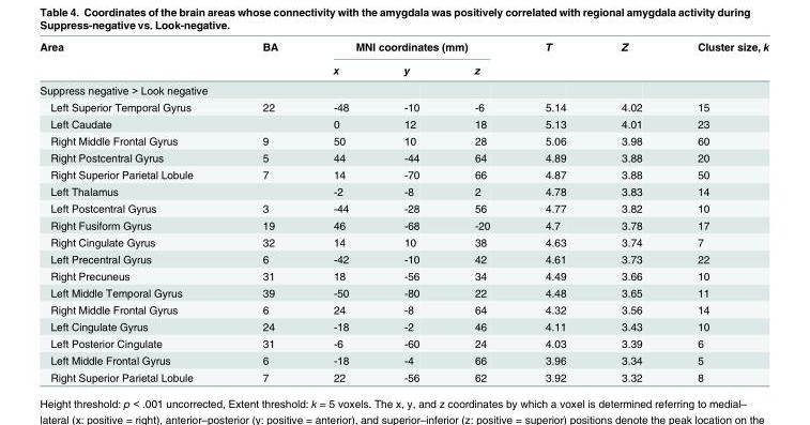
<table><thead><tr><td rowspan="2">Area</td><td rowspan="2">BA</td><td colspan="3">MNI coordinates (mm)</td><td rowspan="2">T</td><td rowspan="2">Z</td><td rowspan="2">Cluster size, k</td></tr><tr><td>x</td><td>y</td><td>z</td></tr></thead><tbody><tr><td colspan="8">Suppress negative &gt; Look negative</td></tr><tr><td>Left Superior Temporal Gyrus</td><td>22</td><td>-48</td><td>-10</td><td>-6</td><td>5.14</td><td>4.02</td><td>15</td></tr><tr><td>Left Caudate</td><td></td><td>0</td><td>12</td><td>18</td><td>5.13</td><td>4.01</td><td>23</td></tr><tr><td>Right Middle Frontal Gyrus</td><td>9</td><td>50</td><td>10</td><td>28</td><td>5.06</td><td>3.98</td><td>60</td></tr><tr><td>Right Postcentral Gyrus</td><td>5</td><td>44</td><td>-44</td><td>64</td><td>4.89</td><td>3.88</td><td>20</td></tr><tr><td>Right Superior Parietal Lobule</td><td>7</td><td>14</td><td>-70</td><td>66</td><td>4.87</td><td>3.88</td><td>50</td></tr><tr><td>Left Thalamus</td><td></td><td>-2</td><td>-8</td><td>2</td><td>4.78</td><td>3.83</td><td>14</td></tr><tr><td>Left Postcentral Gyrus</td><td>3</td><td>-44</td><td>-28</td><td>56</td><td>4.77</td><td>3.82</td><td>10</td></tr><tr><td>Right Fusiform Gyrus</td><td>19</td><td>46</td><td>-68</td><td>-20</td><td>4.7</td><td>3.78</td><td>17</td></tr><tr><td>Right Cingulate Gyrus</td><td>32</td><td>14</td><td>10</td><td>38</td><td>4.63</td><td>3.74</td><td>7</td></tr><tr><td>Left Precentral Gyrus</td><td>6</td><td>-42</td><td>-10</td><td>42</td><td>4.61</td><td>3.73</td><td>22</td></tr><tr><td>Right Precuneus</td><td>31</td><td>18</td><td>-56</td><td>34</td><td>4.49</td><td>3.66</td><td>10</td></tr><tr><td>Left Middle Temporal Gyrus</td><td>39</td><td>-50</td><td>-80</td><td>22</td><td>4.48</td><td>3.65</td><td>11</td></tr><tr><td>Right Middle Frontal Gyrus</td><td>6</td><td>24</td><td>-8</td><td>64</td><td>4.32</td><td>3.56</td><td>14</td></tr><tr><td>Left Cingulate Gyrus</td><td>24</td><td>-18</td><td>-2</td><td>46</td><td>4.11</td><td>3.43</td><td>10</td></tr><tr><td>Left Posterior Cingulate</td><td>31</td><td>-6</td><td>-60</td><td>24</td><td>4.03</td><td>3.39</td><td>6</td></tr><tr><td>Left Middle Frontal Gyrus</td><td>6</td><td>-18</td><td>-4</td><td>66</td><td>3.96</td><td>3.34</td><td>5</td></tr><tr><td>Right Superior Parietal Lobule</td><td>7</td><td>22</td><td>-56</td><td>62</td><td>3.92</td><td>3.32</td><td>8</td></tr></tbody></table>